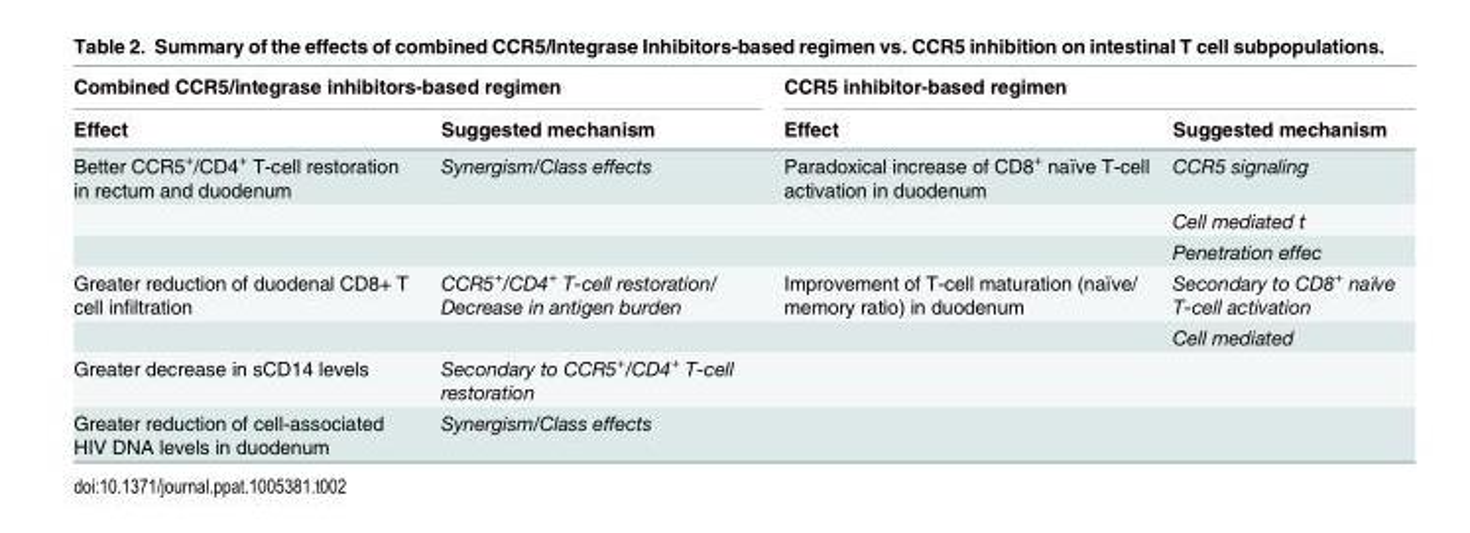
<table><thead><tr><td colspan="2">Combined CCR5/integrase inhibitors-based regimen</td><td colspan="2">CCR5 inhibitor-based regimen</td></tr><tr><td>Effect</td><td>Suggested mechanism</td><td>Effect</td><td>Suggested mechanism</td></tr></thead><tbody><tr><td rowspan="3">Better CCR5<sup>+</sup>/CD4<sup>+</sup> T-cell restoration in rectum and duodenum</td><td>Synergism/Class effects</td><td>Paradoxical increase of CD8<sup>+</sup> naïve T-cell activation in duodenum</td><td>CCR5 signaling</td></tr><tr><td></td><td></td><td>Cell mediated t</td></tr><tr><td></td><td></td><td>Penetration effec</td></tr><tr><td rowspan="2">Greater reduction of duodenal CD8+ T cell infiltration</td><td>CCR5<sup>+</sup>/CD4<sup>+</sup> T-cell restoration/ Decrease in antigen burden</td><td>Improvement of T-cell maturation (naïve/ memory ratio) in duodenum</td><td>Secondary to CD8<sup>+</sup> naïve T-cell activation</td></tr><tr><td></td><td></td><td>Cell mediated</td></tr><tr><td>Greater decrease in sCD14 levels</td><td>Secondary to CCR5<sup>+</sup>/CD4<sup>+</sup> T-cell restoration</td><td></td><td></td></tr><tr><td>Greater reduction of cell-associated HIV DNA levels in duodenum</td><td>Synergism/Class effects</td><td></td><td></td></tr></tbody></table>